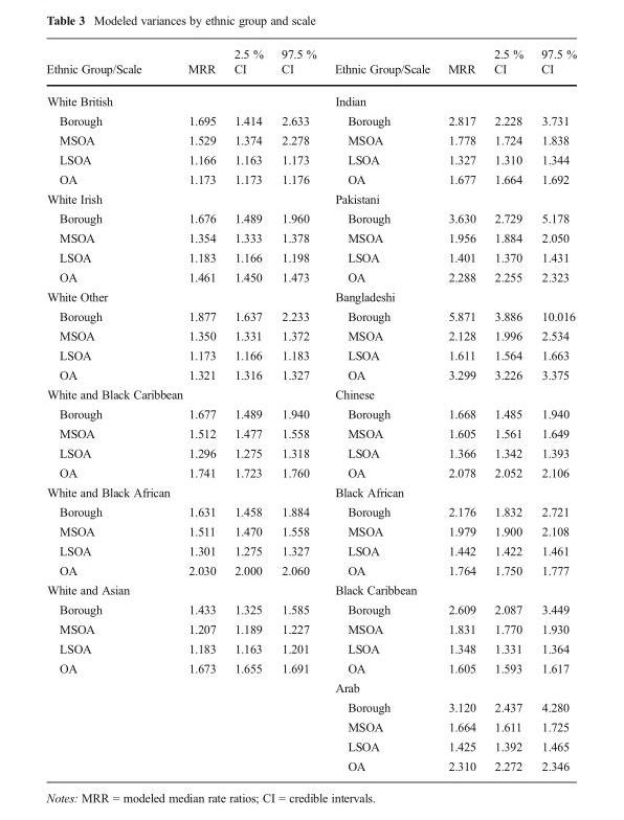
<table><thead><tr><td>Ethnic Group/Scale</td><td>MRR</td><td>2.5 % CI</td><td>97.5 % CI</td><td>Ethnic Group/Scale</td><td>MRR</td><td>2.5 % CI</td><td>97.5 % CI</td></tr></thead><tbody><tr><td>White British</td><td></td><td></td><td></td><td>Indian</td><td></td><td></td><td></td></tr><tr><td>Borough</td><td>1.695</td><td>1.414</td><td>2.633</td><td>Borough</td><td>2.817</td><td>2.228</td><td>3.731</td></tr><tr><td>MSOA</td><td>1.529</td><td>1.374</td><td>2.278</td><td>MSOA</td><td>1.778</td><td>1.724</td><td>1.838</td></tr><tr><td>LSOA</td><td>1.166</td><td>1.163</td><td>1.173</td><td>LSOA</td><td>1.327</td><td>1.310</td><td>1.344</td></tr><tr><td>OA</td><td>1.173</td><td>1.173</td><td>1.176</td><td>OA</td><td>1.677</td><td>1.664</td><td>1.692</td></tr><tr><td>White Irish</td><td></td><td></td><td></td><td>Pakistani</td><td></td><td></td><td></td></tr><tr><td>Borough</td><td>1.676</td><td>1.489</td><td>1.960</td><td>Borough</td><td>3.630</td><td>2.729</td><td>5.178</td></tr><tr><td>MSOA</td><td>1.354</td><td>1.333</td><td>1.378</td><td>MSOA</td><td>1.956</td><td>1.884</td><td>2.050</td></tr><tr><td>LSOA</td><td>1.183</td><td>1.166</td><td>1.198</td><td>LSOA</td><td>1.401</td><td>1.370</td><td>1.431</td></tr><tr><td>OA</td><td>1.461</td><td>1.450</td><td>1.473</td><td>OA</td><td>2.288</td><td>2.255</td><td>2.323</td></tr><tr><td>White Other</td><td></td><td></td><td></td><td>Bangladeshi</td><td></td><td></td><td></td></tr><tr><td>Borough</td><td>1.877</td><td>1.637</td><td>2.233</td><td>Borough</td><td>5.871</td><td>3.886</td><td>10.016</td></tr><tr><td>MSOA</td><td>1.350</td><td>1.331</td><td>1.372</td><td>MSOA</td><td>2.128</td><td>1.996</td><td>2.534</td></tr><tr><td>LSOA</td><td>1.173</td><td>1.166</td><td>1.183</td><td>LSOA</td><td>1.611</td><td>1.564</td><td>1.663</td></tr><tr><td>OA</td><td>1.321</td><td>1.316</td><td>1.327</td><td>OA</td><td>3.299</td><td>3.226</td><td>3.375</td></tr><tr><td colspan="2">White and Black Caribbean</td><td></td><td></td><td>Chinese</td><td></td><td></td><td></td></tr><tr><td>Borough</td><td>1.677</td><td>1.489</td><td>1.940</td><td>Borough</td><td>1.668</td><td>1.485</td><td>1.940</td></tr><tr><td>MSOA</td><td>1.512</td><td>1.477</td><td>1.558</td><td>MSOA</td><td>1.605</td><td>1.561</td><td>1.649</td></tr><tr><td>LSOA</td><td>1.296</td><td>1.275</td><td>1.318</td><td>LSOA</td><td>1.366</td><td>1.342</td><td>1.393</td></tr><tr><td>OA</td><td>1.741</td><td>1.723</td><td>1.760</td><td>OA</td><td>2.078</td><td>2.052</td><td>2.106</td></tr><tr><td>White and Black African</td><td></td><td></td><td></td><td>Black African</td><td></td><td></td><td></td></tr><tr><td>Borough</td><td>1.631</td><td>1.458</td><td>1.884</td><td>Borough</td><td>2.176</td><td>1.832</td><td>2.721</td></tr><tr><td>MSOA</td><td>1.511</td><td>1.470</td><td>1.558</td><td>MSOA</td><td>1.979</td><td>1.900</td><td>2.108</td></tr><tr><td>LSOA</td><td>1.301</td><td>1.275</td><td>1.327</td><td>LSOA</td><td>1.442</td><td>1.422</td><td>1.461</td></tr><tr><td>OA</td><td>2.030</td><td>2.000</td><td>2.060</td><td>OA</td><td>1.764</td><td>1.750</td><td>1.777</td></tr><tr><td>White and Asian</td><td></td><td></td><td></td><td>Black Caribbean</td><td></td><td></td><td></td></tr><tr><td>Borough</td><td>1.433</td><td>1.325</td><td>1.585</td><td>Borough</td><td>2.609</td><td>2.087</td><td>3.449</td></tr><tr><td>MSOA</td><td>1.207</td><td>1.189</td><td>1.227</td><td>MSOA</td><td>1.831</td><td>1.770</td><td>1.930</td></tr><tr><td>LSOA</td><td>1.183</td><td>1.163</td><td>1.201</td><td>LSOA</td><td>1.348</td><td>1.331</td><td>1.364</td></tr><tr><td rowspan="6">OA</td><td>1.673</td><td>1.655</td><td>1.691</td><td>OA</td><td>1.605</td><td>1.593</td><td>1.617</td></tr><tr><td></td><td></td><td></td><td>Arab</td><td></td><td></td><td></td></tr><tr><td></td><td></td><td></td><td>Borough</td><td>3.120</td><td>2.437</td><td>4.280</td></tr><tr><td></td><td></td><td></td><td>MSOA</td><td>1.664</td><td>1.611</td><td>1.725</td></tr><tr><td></td><td></td><td></td><td>LSOA</td><td>1.425</td><td>1.392</td><td>1.465</td></tr><tr><td></td><td></td><td></td><td>OA</td><td>2.310</td><td>2.272</td><td>2.346</td></tr></tbody></table>